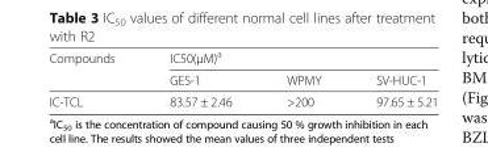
<table><thead><tr><td rowspan="2">Compounds</td><td colspan="3">IC50(μM)<sup>a</sup></td></tr><tr><td>GES-1</td><td>WPMY</td><td>SV-HUC-1</td></tr></thead><tbody><tr><td>IC-TCL</td><td>83.57 ± 2.46</td><td>&gt;200</td><td>97.65 ± 5.21</td></tr></tbody></table>